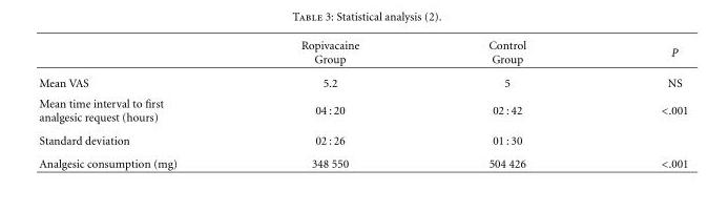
<table><thead><tr><td></td><td>Ropivacaine Group</td><td>Control Group</td><td>P</td></tr></thead><tbody><tr><td>Mean VAS</td><td>5.2</td><td>5</td><td>NS</td></tr><tr><td>Mean time interval to first analgesic request (hours)</td><td>04 : 20</td><td>02 : 42</td><td>&lt;.001</td></tr><tr><td>Standard deviation</td><td>02 : 26</td><td>01 : 30</td><td></td></tr><tr><td>Analgesic consumption (mg)</td><td>348 550</td><td>504 426</td><td>&lt;.001</td></tr></tbody></table>